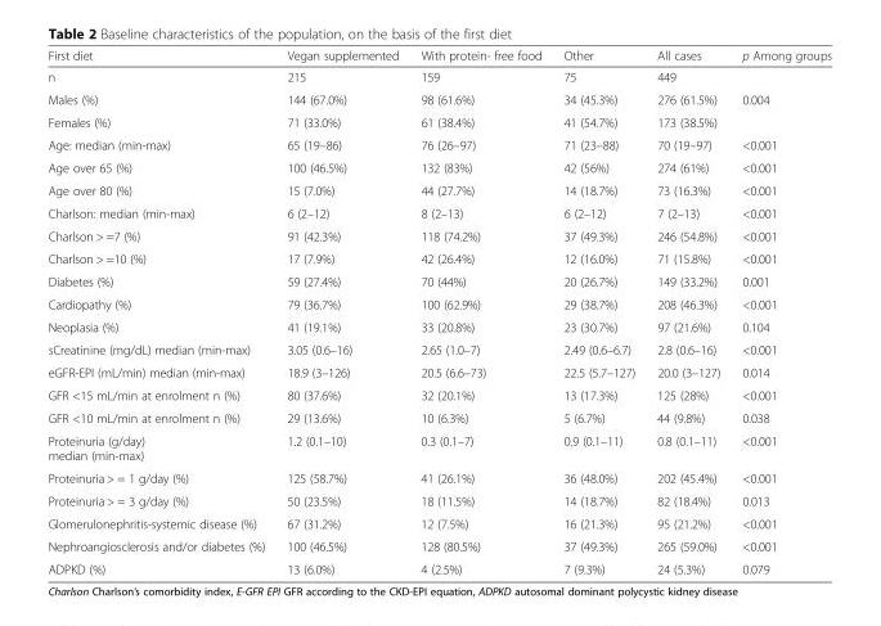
<table><thead><tr><td>First diet</td><td>Vegan supplemented</td><td>With protein- free food</td><td>Other</td><td>All cases</td><td>p Among groups</td></tr></thead><tbody><tr><td>n</td><td>215</td><td>159</td><td>75</td><td>449</td><td></td></tr><tr><td>Males (%)</td><td>144 (67.0%)</td><td>98 (61.6%)</td><td>34 (45.3%)</td><td>276 (61.5%)</td><td rowspan="2">0.004</td></tr><tr><td>Females (%)</td><td>71 (33.0%)</td><td>61 (38.4%)</td><td>41 (54.7%)</td><td>173 (38.5%)</td></tr><tr><td>Age: median (min-max)</td><td>65 (19–86)</td><td>76 (26–97)</td><td>71 (23–88)</td><td>70 (19–97)</td><td>&lt;0.001</td></tr><tr><td>Age over 65 (%)</td><td>100 (46.5%)</td><td>132 (83%)</td><td>42 (56%)</td><td>274 (61%)</td><td>&lt;0.001</td></tr><tr><td>Age over 80 (%)</td><td>15 (7.0%)</td><td>44 (27.7%)</td><td>14 (18.7%)</td><td>73 (16.3%)</td><td>&lt;0.001</td></tr><tr><td>Charlson: median (min-max)</td><td>6 (2–12)</td><td>8 (2–13)</td><td>6 (2–12)</td><td>7 (2–13)</td><td>&lt;0.001</td></tr><tr><td>Charlson &gt; =7 (%)</td><td>91 (42.3%)</td><td>118 (74.2%)</td><td>37 (49.3%)</td><td>246 (54.8%)</td><td>&lt;0.001</td></tr><tr><td>Charlson &gt; =10 (%)</td><td>17 (7.9%)</td><td>42 (26.4%)</td><td>12 (16.0%)</td><td>71 (15.8%)</td><td>&lt;0.001</td></tr><tr><td>Diabetes (%)</td><td>59 (27.4%)</td><td>70 (44%)</td><td>20 (26.7%)</td><td>149 (33.2%)</td><td>0.001</td></tr><tr><td>Cardiopathy (%)</td><td>79 (36.7%)</td><td>100 (62.9%)</td><td>29 (38.7%)</td><td>208 (46.3%)</td><td>&lt;0.001</td></tr><tr><td>Neoplasia (%)</td><td>41 (19.1%)</td><td>33 (20.8%)</td><td>23 (30.7%)</td><td>97 (21.6%)</td><td>0.104</td></tr><tr><td>sCreatinine (mg/dL) median (min-max)</td><td>3.05 (0.6–16)</td><td>2.65 (1.0–7)</td><td>2.49 (0.6–6.7)</td><td>2.8 (0.6–16)</td><td>&lt;0.001</td></tr><tr><td>eGFR-EPI (mL/min) median (min-max)</td><td>18.9 (3–126)</td><td>20.5 (6.6–73)</td><td>22.5 (5.7–127)</td><td>20.0 (3–127)</td><td>0.014</td></tr><tr><td>GFR &lt;15 mL/min at enrolment n (%)</td><td>80 (37.6%)</td><td>32 (20.1%)</td><td>13 (17.3%)</td><td>125 (28%)</td><td>&lt;0.001</td></tr><tr><td>GFR &lt;10 mL/min at enrolment n (%)</td><td>29 (13.6%)</td><td>10 (6.3%)</td><td>5 (6.7%)</td><td>44 (9.8%)</td><td>0.038</td></tr><tr><td>Proteinuria (g/day) median (min-max)</td><td>1.2 (0.1–10)</td><td>0.3 (0.1–7)</td><td>0.9 (0.1–11)</td><td>0.8 (0.1–11)</td><td>&lt;0.001</td></tr><tr><td>Proteinuria &gt; = 1 g/day (%)</td><td>125 (58.7%)</td><td>41 (26.1%)</td><td>36 (48.0%)</td><td>202 (45.4%)</td><td>&lt;0.001</td></tr><tr><td>Proteinuria &gt; = 3 g/day (%)</td><td>50 (23.5%)</td><td>18 (11.5%)</td><td>14 (18.7%)</td><td>82 (18.4%)</td><td>0.013</td></tr><tr><td>Glomerulonephritis-systemic disease (%)</td><td>67 (31.2%)</td><td>12 (7.5%)</td><td>16 (21.3%)</td><td>95 (21.2%)</td><td>&lt;0.001</td></tr><tr><td>Nephroangiosclerosis and/or diabetes (%)</td><td>100 (46.5%)</td><td>128 (80.5%)</td><td>37 (49.3%)</td><td>265 (59.0%)</td><td>&lt;0.001</td></tr><tr><td>ADPKD (%)</td><td>13 (6.0%)</td><td>4 (2.5%)</td><td>7 (9.3%)</td><td>24 (5.3%)</td><td>0.079</td></tr></tbody></table>